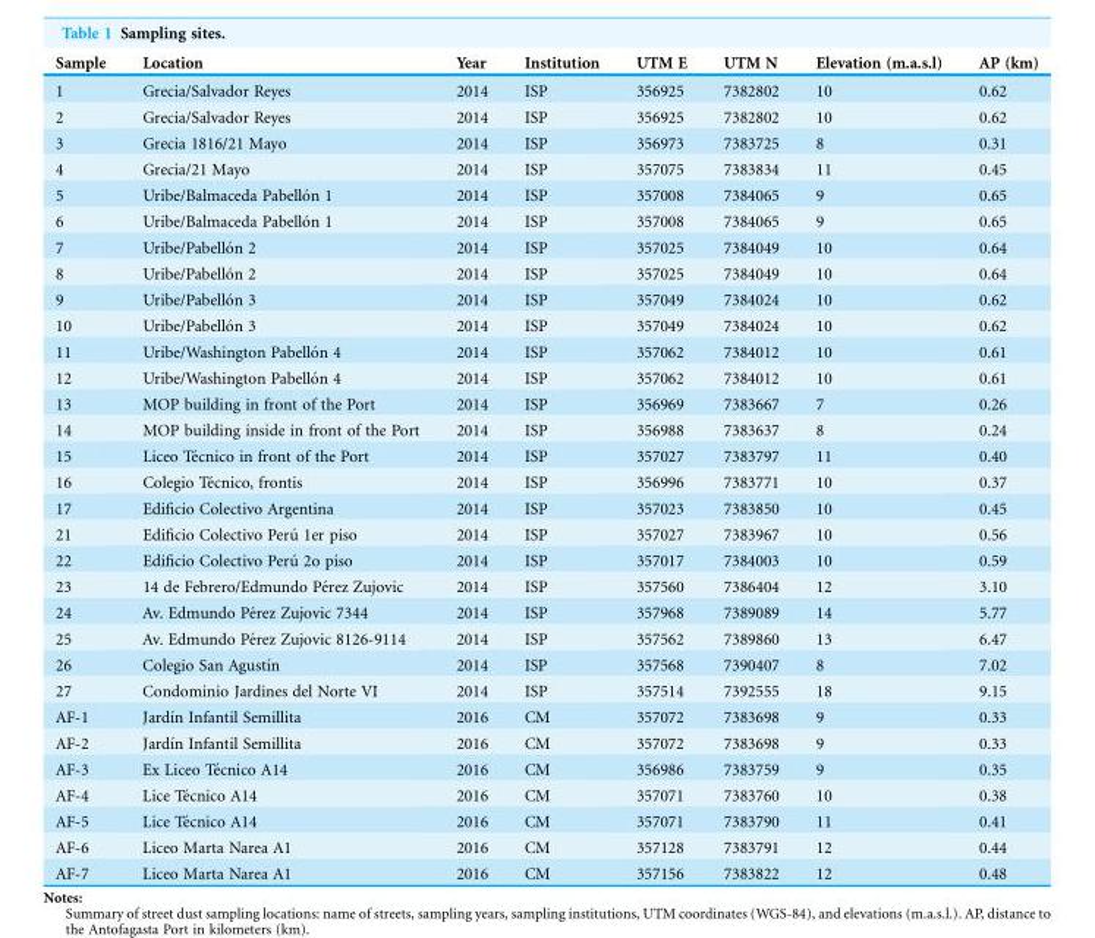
<table><thead><tr><td>Sample</td><td>Location</td><td>Year</td><td>Institution</td><td>UTM E</td><td>UTM N</td><td>Elevation (m.a.s.l)</td><td>AP (km)</td></tr></thead><tbody><tr><td>1</td><td>Grecia/Salvador Reyes</td><td>2014</td><td>ISP</td><td>356925</td><td>7382802</td><td>10</td><td>0.62</td></tr><tr><td>2</td><td>Grecia/Salvador Reyes</td><td>2014</td><td>ISP</td><td>356925</td><td>7382802</td><td>10</td><td>0.62</td></tr><tr><td>3</td><td>Grecia 1816/21 Mayo</td><td>2014</td><td>ISP</td><td>356973</td><td>7383725</td><td>8</td><td>0.31</td></tr><tr><td>4</td><td>Grecia/21 Mayo</td><td>2014</td><td>ISP</td><td>357075</td><td>7383834</td><td>11</td><td>0.45</td></tr><tr><td>5</td><td>Uribe/Balmaceda Pabello´n 1</td><td>2014</td><td>ISP</td><td>357008</td><td>7384065</td><td>9</td><td>0.65</td></tr><tr><td>6</td><td>Uribe/Balmaceda Pabello´n 1</td><td>2014</td><td>ISP</td><td>357008</td><td>7384065</td><td>9</td><td>0.65</td></tr><tr><td>7</td><td>Uribe/Pabello´n 2</td><td>2014</td><td>ISP</td><td>357025</td><td>7384049</td><td>10</td><td>0.64</td></tr><tr><td>8</td><td>Uribe/Pabello´n 2</td><td>2014</td><td>ISP</td><td>357025</td><td>7384049</td><td>10</td><td>0.64</td></tr><tr><td>9</td><td>Uribe/Pabello´n 3</td><td>2014</td><td>ISP</td><td>357049</td><td>7384024</td><td>10</td><td>0.62</td></tr><tr><td>10</td><td>Uribe/Pabello´n 3</td><td>2014</td><td>ISP</td><td>357049</td><td>7384024</td><td>10</td><td>0.62</td></tr><tr><td>11</td><td>Uribe/Washington Pabello´n 4</td><td>2014</td><td>ISP</td><td>357062</td><td>7384012</td><td>10</td><td>0.61</td></tr><tr><td>12</td><td>Uribe/Washington Pabello´n 4</td><td>2014</td><td>ISP</td><td>357062</td><td>7384012</td><td>10</td><td>0.61</td></tr><tr><td>13</td><td>MOP building in front of the Port</td><td>2014</td><td>ISP</td><td>356969</td><td>7383667</td><td>7</td><td>0.26</td></tr><tr><td>14</td><td>MOP building inside in front of the Port</td><td>2014</td><td>ISP</td><td>356988</td><td>7383637</td><td>8</td><td>0.24</td></tr><tr><td>15</td><td>Liceo Te´cnico in front of the Port</td><td>2014</td><td>ISP</td><td>357027</td><td>7383797</td><td>11</td><td>0.40</td></tr><tr><td>16</td><td>Colegio Te´cnico, frontis</td><td>2014</td><td>ISP</td><td>356996</td><td>7383771</td><td>10</td><td>0.37</td></tr><tr><td>17</td><td>Edificio Colectivo Argentina</td><td>2014</td><td>ISP</td><td>357023</td><td>7383850</td><td>10</td><td>0.45</td></tr><tr><td>21</td><td>Edificio Colectivo Peru´ 1er piso</td><td>2014</td><td>ISP</td><td>357027</td><td>7383967</td><td>10</td><td>0.56</td></tr><tr><td>22</td><td>Edificio Colectivo Peru´ 2o piso</td><td>2014</td><td>ISP</td><td>357017</td><td>7384003</td><td>10</td><td>0.59</td></tr><tr><td>23</td><td>14 de Febrero/Edmundo Pe´rez Zujovic</td><td>2014</td><td>ISP</td><td>357560</td><td>7386404</td><td>12</td><td>3.10</td></tr><tr><td>24</td><td>Av. Edmundo Pe´rez Zujovic 7344</td><td>2014</td><td>ISP</td><td>357968</td><td>7389089</td><td>14</td><td>5.77</td></tr><tr><td>25</td><td>Av. Edmundo Pe´rez Zujovic 8126-9114</td><td>2014</td><td>ISP</td><td>357562</td><td>7389860</td><td>13</td><td>6.47</td></tr><tr><td>26</td><td>Colegio San Agustı´n</td><td>2014</td><td>ISP</td><td>357568</td><td>7390407</td><td>8</td><td>7.02</td></tr><tr><td>27</td><td>Condominio Jardines del Norte VI</td><td>2014</td><td>ISP</td><td>357514</td><td>7392555</td><td>18</td><td>9.15</td></tr><tr><td>AF-1</td><td>Jardı´n Infantil Semillita</td><td>2016</td><td>CM</td><td>357072</td><td>7383698</td><td>9</td><td>0.33</td></tr><tr><td>AF-2</td><td>Jardı´n Infantil Semillita</td><td>2016</td><td>CM</td><td>357072</td><td>7383698</td><td>9</td><td>0.33</td></tr><tr><td>AF-3</td><td>Ex Liceo Te´cnico A14</td><td>2016</td><td>CM</td><td>356986</td><td>7383759</td><td>9</td><td>0.35</td></tr><tr><td>AF-4</td><td>Lice Te´cnico A14</td><td>2016</td><td>CM</td><td>357071</td><td>7383760</td><td>10</td><td>0.38</td></tr><tr><td>AF-5</td><td>Lice Te´cnico A14</td><td>2016</td><td>CM</td><td>357071</td><td>7383790</td><td>11</td><td>0.41</td></tr><tr><td>AF-6</td><td>Liceo Marta Narea A1</td><td>2016</td><td>CM</td><td>357128</td><td>7383791</td><td>12</td><td>0.44</td></tr><tr><td>AF-7</td><td>Liceo Marta Narea A1</td><td>2016</td><td>CM</td><td>357156</td><td>7383822</td><td>12</td><td>0.48</td></tr></tbody></table>